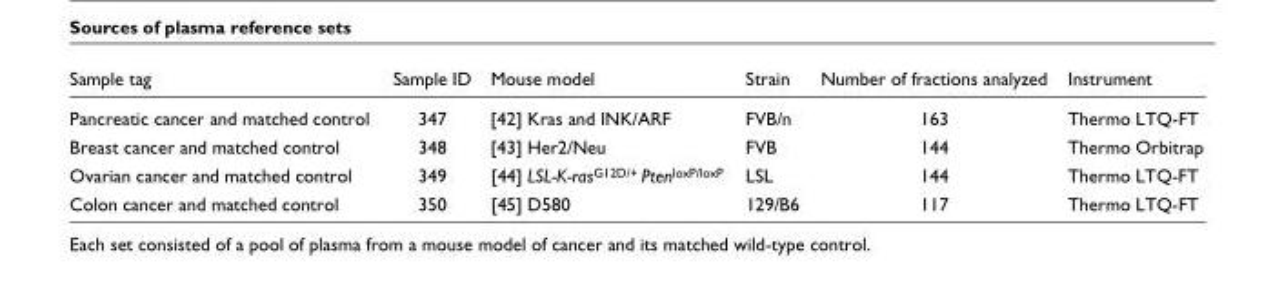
<table><thead><tr><td>Sample tag</td><td>Sample ID</td><td>Mouse model</td><td>Strain</td><td>Number of fractions analyzed</td><td>Instrument</td></tr></thead><tbody><tr><td>Pancreatic cancer and matched control</td><td>347</td><td>[42] Kras and INK/ARF</td><td>FVB/n</td><td>163</td><td>Thermo LTQ-FT</td></tr><tr><td>Breast cancer and matched control</td><td>348</td><td>[43] Her2/Neu</td><td>FVB</td><td>144</td><td>Thermo Orbitrap</td></tr><tr><td>Ovarian cancer and matched control</td><td>349</td><td>[44] LSL-K-ras<sup>G12D/+</sup> Pten<sup>loxP/loxP</sup></td><td>LSL</td><td>144</td><td>Thermo LTQ-FT</td></tr><tr><td>Colon cancer and matched control</td><td>350</td><td>[45] D580</td><td>129/B6</td><td>117</td><td>Thermo LTQ-FT</td></tr></tbody></table>